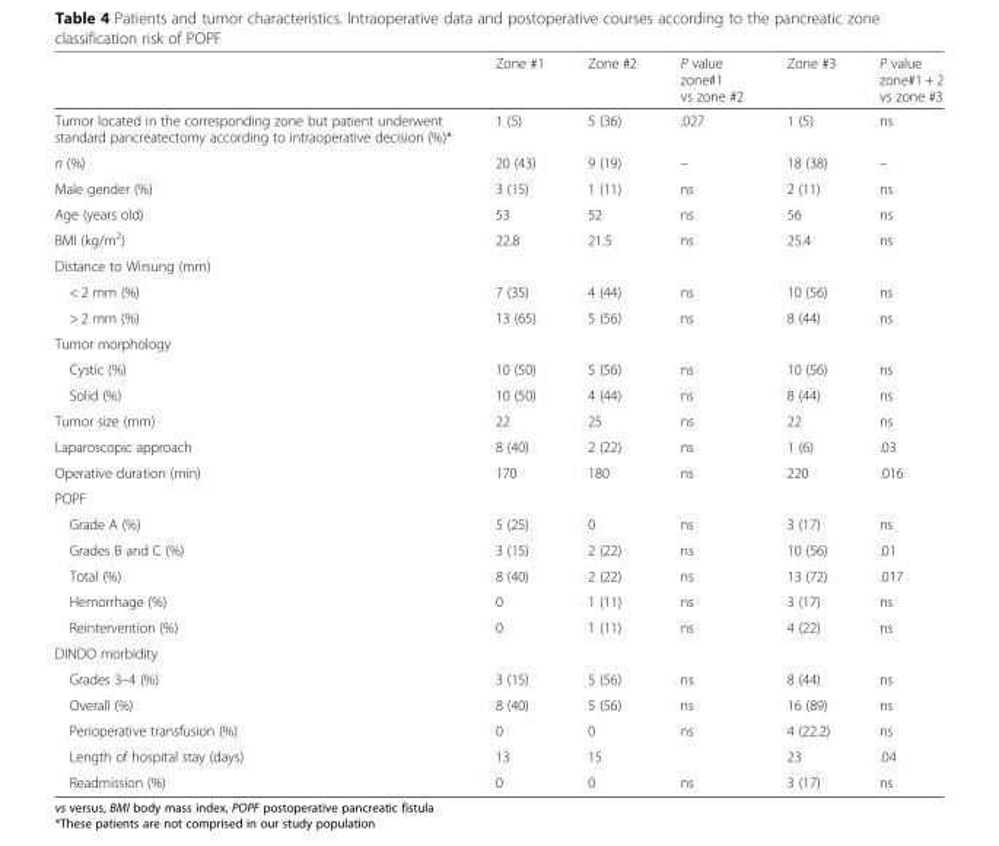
<table><thead><tr><td></td><td>Zone #1</td><td>Zone #2</td><td>P value zone#1 vs zone #2</td><td>Zone #3</td><td>P value zone#1 + 2 vs zone #3</td></tr></thead><tbody><tr><td>Tumor located in the corresponding zone but patient underwent standard pancreatectomy according to intraoperative decision (%)*</td><td>1 (5)</td><td>5 (36)</td><td>.027</td><td>1 (5)</td><td>ns</td></tr><tr><td>n (%)</td><td>20 (43)</td><td>9 (19)</td><td>–</td><td>18 (38)</td><td>–</td></tr><tr><td>Male gender (%)</td><td>3 (15)</td><td>1 (11)</td><td>ns</td><td>2 (11)</td><td>ns</td></tr><tr><td>Age (years old)</td><td>53</td><td>52</td><td>ns</td><td>56</td><td>ns</td></tr><tr><td>BMI (kg/m<sup>2</sup>)</td><td>22.8</td><td>21.5</td><td>ns</td><td>25.4</td><td>ns</td></tr><tr><td colspan="6">Distance to Wirsung (mm)</td></tr><tr><td>&lt; 2 mm (%)</td><td>7 (35)</td><td>4 (44)</td><td>ns</td><td>10 (56)</td><td>ns</td></tr><tr><td>&gt; 2 mm (%)</td><td>13 (65)</td><td>5 (56)</td><td>ns</td><td>8 (44)</td><td>ns</td></tr><tr><td colspan="6">Tumor morphology</td></tr><tr><td>Cystic (%)</td><td>10 (50)</td><td>5 (56)</td><td>ns</td><td>10 (56)</td><td>ns</td></tr><tr><td>Solid (%)</td><td>10 (50)</td><td>4 (44)</td><td>ns</td><td>8 (44)</td><td>ns</td></tr><tr><td>Tumor size (mm)</td><td>22</td><td>25</td><td>ns</td><td>22</td><td>ns</td></tr><tr><td>Laparoscopic approach</td><td>8 (40)</td><td>2 (22)</td><td>ns</td><td>1 (6)</td><td>.03</td></tr><tr><td>Operative duration (min)</td><td>170</td><td>180</td><td>ns</td><td>220</td><td>.016</td></tr><tr><td colspan="6">POPF</td></tr><tr><td>Grade A (%)</td><td>5 (25)</td><td>0</td><td>ns</td><td>3 (17)</td><td>ns</td></tr><tr><td>Grades B and C (%)</td><td>3 (15)</td><td>2 (22)</td><td>ns</td><td>10 (56)</td><td>.01</td></tr><tr><td>Total (%)</td><td>8 (40)</td><td>2 (22)</td><td>ns</td><td>13 (72)</td><td>.017</td></tr><tr><td>Hemorrhage (%)</td><td>0</td><td>1 (11)</td><td>ns</td><td>3 (17)</td><td>ns</td></tr><tr><td>Reintervention (%)</td><td>0</td><td>1 (11)</td><td>ns</td><td>4 (22)</td><td>ns</td></tr><tr><td colspan="6">DINDO morbidity</td></tr><tr><td>Grades 3–4 (%)</td><td>3 (15)</td><td>5 (56)</td><td>ns</td><td>8 (44)</td><td>ns</td></tr><tr><td>Overall (%)</td><td>8 (40)</td><td>5 (56)</td><td>ns</td><td>16 (89)</td><td>ns</td></tr><tr><td>Perioperative transfusion (%)</td><td>0</td><td>0</td><td>ns</td><td>4 (22.2)</td><td>ns</td></tr><tr><td>Length of hospital stay (days)</td><td>13</td><td>15</td><td></td><td>23</td><td>.04</td></tr><tr><td>Readmission (%)</td><td>0</td><td>0</td><td>ns</td><td>3 (17)</td><td>ns</td></tr></tbody></table>